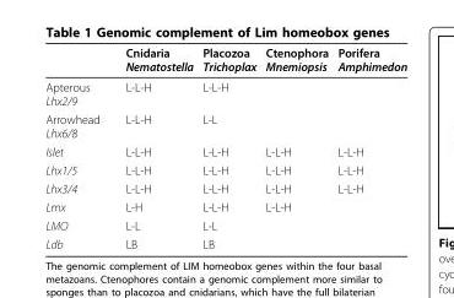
<table><thead><tr><td></td><td>Cnidaria Nematostella</td><td>Placozoa Trichoplax</td><td>Ctenophora Mnemiopsis</td><td>Porifera Amphimedon</td></tr></thead><tbody><tr><td>Apterous Lhx2/9</td><td>L-L-H</td><td>L-L-H</td><td></td><td></td></tr><tr><td>Arrowhead Lhx6/8</td><td>L-L-H</td><td>L-L</td><td></td><td></td></tr><tr><td>Islet</td><td>L-L-H</td><td>L-L-H</td><td>L-L-H</td><td>L-L-H</td></tr><tr><td>Lhx1/5</td><td>L-L-H</td><td>L-L-H</td><td>L-L-H</td><td>L-L-H</td></tr><tr><td>Lhx3/4</td><td>L-L-H</td><td>L-L-H</td><td>L-L-H</td><td>L-L-H</td></tr><tr><td>Lmx</td><td>L-H</td><td>L-L-H</td><td>L-L-H</td><td></td></tr><tr><td>LMO</td><td>L-L</td><td>L-L</td><td></td><td></td></tr><tr><td>Ldb</td><td>LB</td><td>LB</td><td></td><td></td></tr></tbody></table>